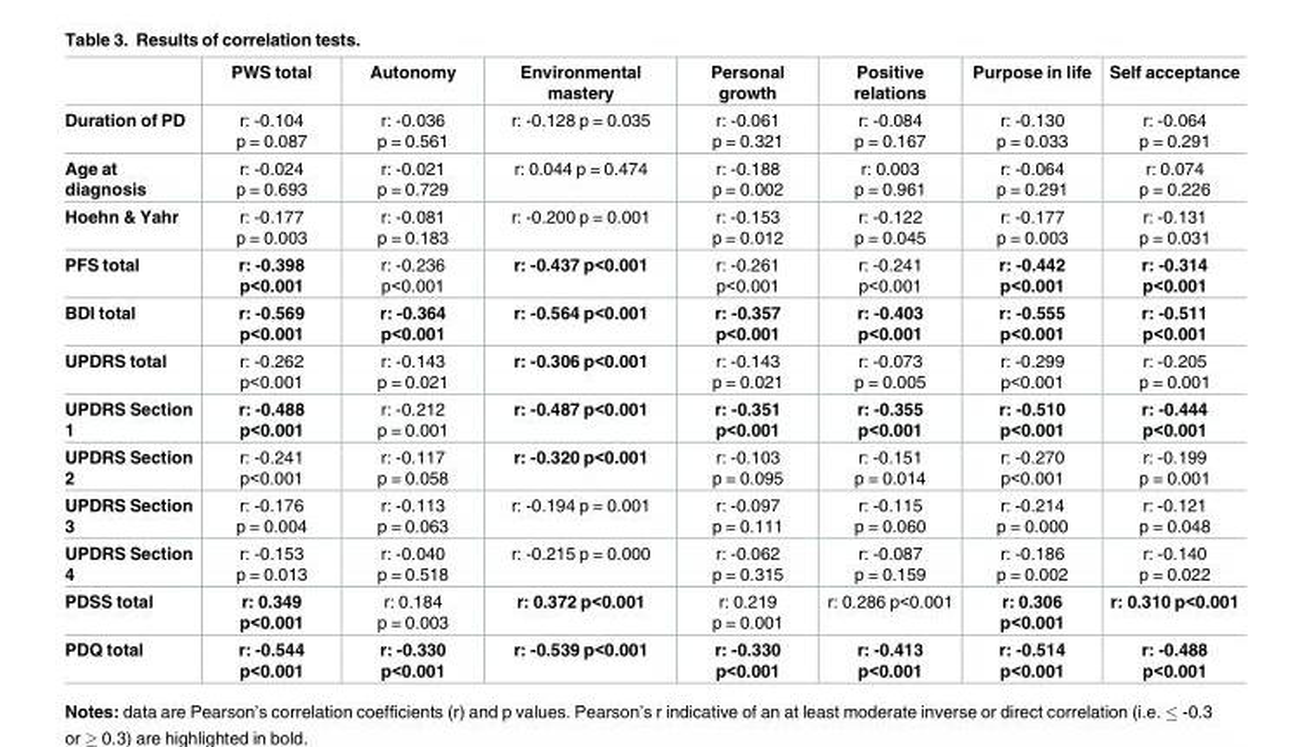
<table><thead><tr><td></td><td>PWS total</td><td>Autonomy</td><td>Environmental mastery</td><td>Personal growth</td><td>Positive relations</td><td>Purpose in life</td><td>Self acceptance</td></tr></thead><tbody><tr><td>Duration of PD</td><td>r: -0.104 p = 0.087</td><td>r: -0.036 p = 0.561</td><td>r: -0.128 p = 0.035</td><td>r: -0.061 p = 0.321</td><td>r: -0.084 p = 0.167</td><td>r: -0.130 p = 0.033</td><td>r: -0.064 p = 0.291</td></tr><tr><td>Age at diagnosis</td><td>r: -0.024 p = 0.693</td><td>r: -0.021 p = 0.729</td><td>r: 0.044 p = 0.474</td><td>r: -0.188 p = 0.002</td><td>r: 0.003 p = 0.961</td><td>r: -0.064 p = 0.291</td><td>r: 0.074 p = 0.226</td></tr><tr><td>Hoehn &amp; Yahr</td><td>r: -0.177 p = 0.003</td><td>r: -0.081 p = 0.183</td><td>r: -0.200 p = 0.001</td><td>r: -0.153 p = 0.012</td><td>r: -0.122 p = 0.045</td><td>r: -0.177 p = 0.003</td><td>r: -0.131 p = 0.031</td></tr><tr><td>PFS total</td><td>r: -0.398 p&lt;0.001</td><td>r: -0.236 p&lt;0.001</td><td>r: -0.437 p&lt;0.001</td><td>r: -0.261 p&lt;0.001</td><td>r: -0.241 p&lt;0.001</td><td>r: -0.442 p&lt;0.001</td><td>r: -0.314 p&lt;0.001</td></tr><tr><td>BDI total</td><td>r: -0.569 p&lt;0.001</td><td>r: -0.364 p&lt;0.001</td><td>r: -0.564 p&lt;0.001</td><td>r: -0.357 p&lt;0.001</td><td>r: -0.403 p&lt;0.001</td><td>r: -0.555 p&lt;0.001</td><td>r: -0.511 p&lt;0.001</td></tr><tr><td>UPDRS total</td><td>r: -0.262 p&lt;0.001</td><td>r: -0.143 p = 0.021</td><td>r: -0.306 p&lt;0.001</td><td>r: -0.143 p = 0.021</td><td>r: -0.073 p = 0.005</td><td>r: -0.299 p&lt;0.001</td><td>r: -0.205 p = 0.001</td></tr><tr><td>UPDRS Section 1</td><td>r: -0.488 p&lt;0.001</td><td>r: -0.212 p = 0.001</td><td>r: -0.487 p&lt;0.001</td><td>r: -0.351 p&lt;0.001</td><td>r: -0.355 p&lt;0.001</td><td>r: -0.510 p&lt;0.001</td><td>r: -0.444 p&lt;0.001</td></tr><tr><td>UPDRS Section 2</td><td>r: -0.241 p&lt;0.001</td><td>r: -0.117 p = 0.058</td><td>r: -0.320 p&lt;0.001</td><td>r: -0.103 p = 0.095</td><td>r: -0.151 p = 0.014</td><td>r: -0.270 p&lt;0.001</td><td>r: -0.199 p = 0.001</td></tr><tr><td>UPDRS Section 3</td><td>r: -0.176 p = 0.004</td><td>r: -0.113 p = 0.063</td><td>r: -0.194 p = 0.001</td><td>r: -0.097 p = 0.111</td><td>r: -0.115 p = 0.060</td><td>r: -0.214 p = 0.000</td><td>r: -0.121 p = 0.048</td></tr><tr><td>UPDRS Section 4</td><td>r: -0.153 p = 0.013</td><td>r: -0.040 p = 0.518</td><td>r: -0.215 p = 0.000</td><td>r: -0.062 p = 0.315</td><td>r: -0.087 p = 0.159</td><td>r: -0.186 p = 0.002</td><td>r: -0.140 p = 0.022</td></tr><tr><td>PDSS total</td><td>r: 0.349 p&lt;0.001</td><td>r: 0.184 p = 0.003</td><td>r: 0.372 p&lt;0.001</td><td>r: 0.219 p = 0.001</td><td>r: 0.286 p&lt;0.001</td><td>r: 0.306 p&lt;0.001</td><td>r: 0.310 p&lt;0.001</td></tr><tr><td>PDQ total</td><td>r: -0.544 p&lt;0.001</td><td>r: -0.330 p&lt;0.001</td><td>r: -0.539 p&lt;0.001</td><td>r: -0.330 p&lt;0.001</td><td>r: -0.413 p&lt;0.001</td><td>r: -0.514 p&lt;0.001</td><td>r: -0.488 p&lt;0.001</td></tr></tbody></table>